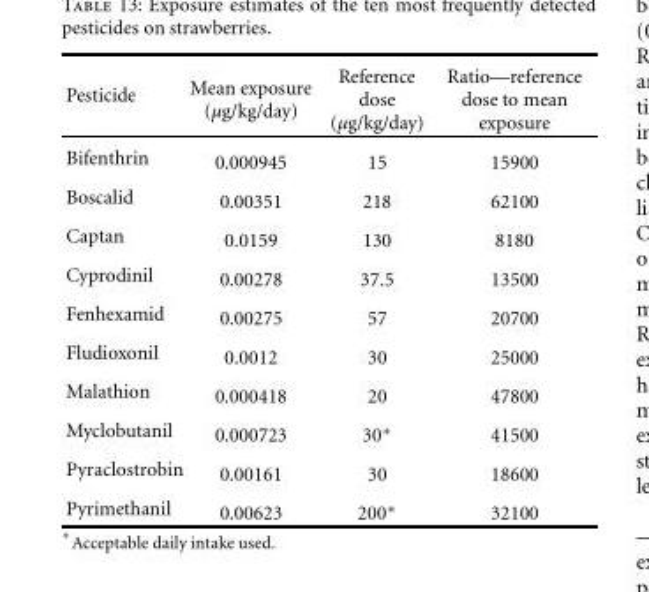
<table><thead><tr><td>Pesticide</td><td>Mean exposure (µg/kg/day)</td><td>Reference dose (µg/kg/day)</td><td>Ratio—reference dose to mean exposure</td></tr></thead><tbody><tr><td>Bifenthrin</td><td>0.000945</td><td>15</td><td>15900</td></tr><tr><td>Boscalid</td><td>0.00351</td><td>218</td><td>62100</td></tr><tr><td>Captan</td><td>0.0159</td><td>130</td><td>8180</td></tr><tr><td>Cyprodinil</td><td>0.00278</td><td>37.5</td><td>13500</td></tr><tr><td>Fenhexamid</td><td>0.00275</td><td>57</td><td>20700</td></tr><tr><td>Fludioxonil</td><td>0.0012</td><td>30</td><td>25000</td></tr><tr><td>Malathion</td><td>0.000418</td><td>20</td><td>47800</td></tr><tr><td>Myclobutanil</td><td>0.000723</td><td>30∗</td><td>41500</td></tr><tr><td>Pyraclostrobin</td><td>0.00161</td><td>30</td><td>18600</td></tr><tr><td>Pyrimethanil</td><td>0.00623</td><td>200∗</td><td>32100</td></tr></tbody></table>